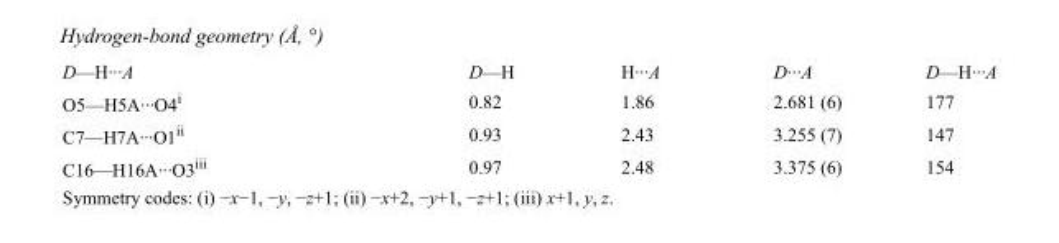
<table><tbody><tr><td>D—H···A</td><td>D—H</td><td>H···A</td><td>D···A</td><td>D—H···A</td></tr><tr><td>O5—H5A···O4<sup>i</sup></td><td>0.82</td><td>1.86</td><td>2.681 (6)</td><td>177</td></tr><tr><td>C7—H7A···O1<sup>ii</sup></td><td>0.93</td><td>2.43</td><td>3.255 (7)</td><td>147</td></tr><tr><td>C16—H16A···O3<sup>iii</sup></td><td>0.97</td><td>2.48</td><td>3.375 (6)</td><td>154</td></tr></tbody></table>